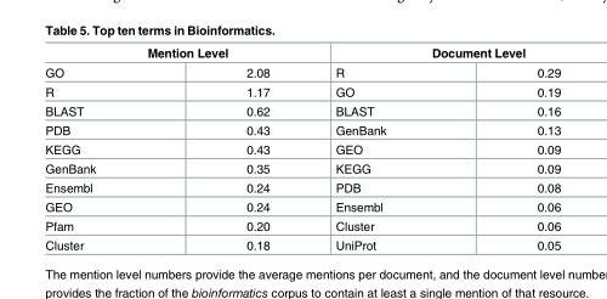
<table><thead><tr><td colspan="2">Mention Level</td><td colspan="2">Document Level</td></tr><tr><td>GO</td><td>2.08</td><td>R</td><td>0.29</td></tr></thead><tbody><tr><td>R</td><td>1.17</td><td>GO</td><td>0.19</td></tr><tr><td>BLAST</td><td>0.62</td><td>BLAST</td><td>0.16</td></tr><tr><td>PDB</td><td>0.43</td><td>GenBank</td><td>0.13</td></tr><tr><td>KEGG</td><td>0.43</td><td>GEO</td><td>0.09</td></tr><tr><td>GenBank</td><td>0.35</td><td>KEGG</td><td>0.09</td></tr><tr><td>Ensembl</td><td>0.24</td><td>PDB</td><td>0.08</td></tr><tr><td>GEO</td><td>0.24</td><td>Ensembl</td><td>0.06</td></tr><tr><td>Pfam</td><td>0.20</td><td>Cluster</td><td>0.06</td></tr><tr><td>Cluster</td><td>0.18</td><td>UniProt</td><td>0.05</td></tr></tbody></table>